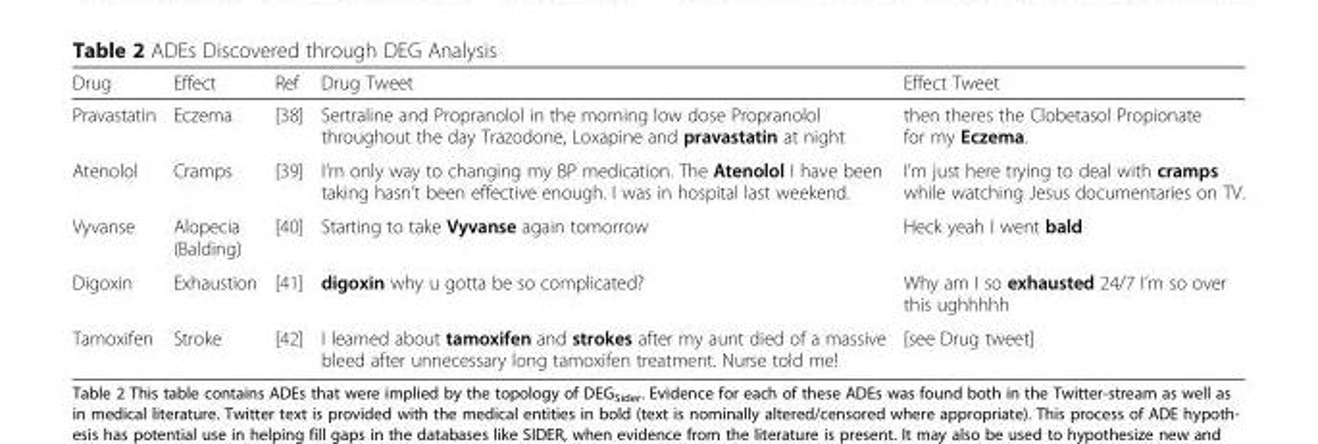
<table><thead><tr><td>Drug</td><td>Effect</td><td>Ref</td><td>Drug Tweet</td><td>Effect Tweet</td></tr></thead><tbody><tr><td>Pravastatin</td><td>Eczema</td><td>[38]</td><td>Sertraline and Propranolol in the morning low dose Propranolol throughout the day Trazodone, Loxapine and pravastatin at night</td><td>then theres the Clobetasol Propionate for my Eczema.</td></tr><tr><td>Atenolol</td><td>Cramps</td><td>[39]</td><td>I’m only way to changing my BP medication. The Atenolol I have been taking hasn’t been effective enough. I was in hospital last weekend.</td><td>I’m just here trying to deal with cramps while watching Jesus documentaries on TV.</td></tr><tr><td>Vyvanse</td><td>Alopecia (Balding)</td><td>[40]</td><td>Starting to take Vyvanse again tomorrow</td><td>Heck yeah I went bald</td></tr><tr><td>Digoxin</td><td>Exhaustion</td><td>[41]</td><td>digoxin why u gotta be so complicated?</td><td>Why am I so exhausted 24/7 I’m so over this ughhhhh</td></tr><tr><td>Tamoxifen</td><td>Stroke</td><td>[42]</td><td>I learned about tamoxifen and strokes after my aunt died of a massive bleed after unnecessary long tamoxifen treatment. Nurse told me!</td><td>[see Drug tweet]</td></tr></tbody></table>